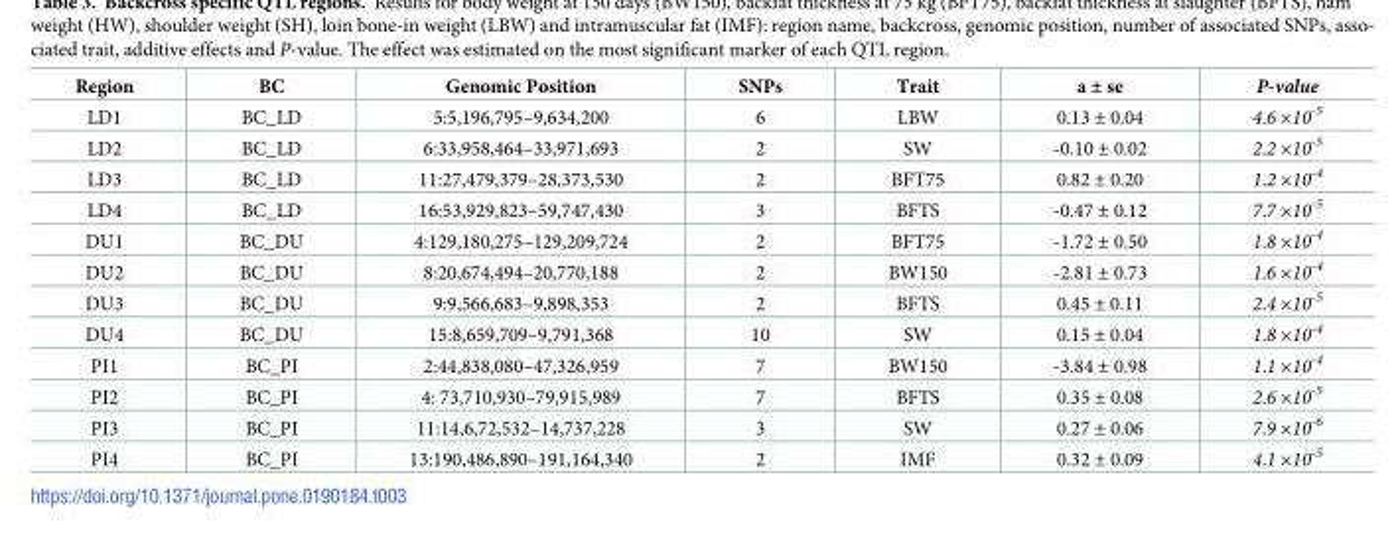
<table><thead><tr><td>Region</td><td>BC</td><td>Genomic Position</td><td>SNPs</td><td>Trait</td><td>a ± se</td><td>P-value</td></tr></thead><tbody><tr><td>LD1</td><td>BC_LD</td><td>5:5,196,795–9,634,200</td><td>6</td><td>LBW</td><td>0.13 ± 0.04</td><td>4.6 ×10<sup>-5</sup></td></tr><tr><td>LD2</td><td>BC_LD</td><td>6:33,958,464–33,971,693</td><td>2</td><td>SW</td><td>-0.10 ± 0.02</td><td>2.2 ×10<sup>-5</sup></td></tr><tr><td>LD3</td><td>BC_LD</td><td>11:27,479,379–28,373,530</td><td>2</td><td>BFT75</td><td>0.82 ± 0.20</td><td>1.2 ×10<sup>-4</sup></td></tr><tr><td>LD4</td><td>BC_LD</td><td>16:53,929,823–59,747,430</td><td>3</td><td>BFTS</td><td>-0.47 ± 0.12</td><td>7.7 ×10<sup>-5</sup></td></tr><tr><td>DU1</td><td>BC_DU</td><td>4:129,180,275–129,209,724</td><td>2</td><td>BFT75</td><td>-1.72 ± 0.50</td><td>1.8 ×10<sup>-4</sup></td></tr><tr><td>DU2</td><td>BC_DU</td><td>8:20,674,494–20,770,188</td><td>2</td><td>BW150</td><td>-2.81 ± 0.73</td><td>1.6 ×10<sup>-4</sup></td></tr><tr><td>DU3</td><td>BC_DU</td><td>9:9,566,683–9,898,353</td><td>2</td><td>BFTS</td><td>0.45 ± 0.11</td><td>2.4 ×10<sup>-5</sup></td></tr><tr><td>DU4</td><td>BC_DU</td><td>15:8,659,709–9,791,368</td><td>10</td><td>SW</td><td>0.15 ± 0.04</td><td>1.8 ×10<sup>-4</sup></td></tr><tr><td>PI1</td><td>BC_PI</td><td>2:44,838,080–47,326,959</td><td>7</td><td>BW150</td><td>-3.84 ± 0.98</td><td>1.1 ×10<sup>-4</sup></td></tr><tr><td>PI2</td><td>BC_PI</td><td>4: 73,710,930–79,915,989</td><td>7</td><td>BFTS</td><td>0.35 ± 0.08</td><td>2.6 ×10<sup>-5</sup></td></tr><tr><td>PI3</td><td>BC_PI</td><td>11:14,6,72,532–14,737,228</td><td>3</td><td>SW</td><td>0.27 ± 0.06</td><td>7.9 ×10<sup>-6</sup></td></tr><tr><td>PI4</td><td>BC_PI</td><td>13:190,486,890–191,164,340</td><td>2</td><td>IMF</td><td>0.32 ± 0.09</td><td>4.1 ×10<sup>-5</sup></td></tr></tbody></table>